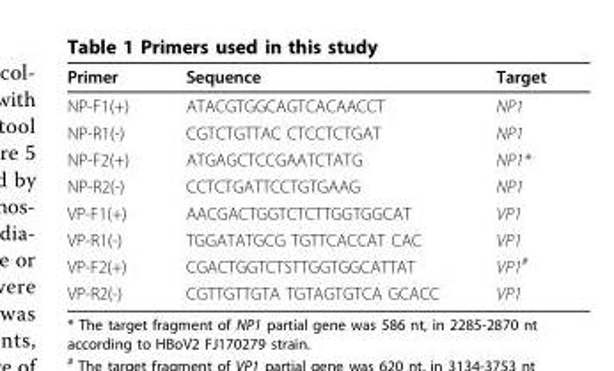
<table><thead><tr><td>Primer</td><td>Sequence</td><td>Target</td></tr></thead><tbody><tr><td>NP-F1(+)</td><td>ATACGTGGCAGTCACAACCT</td><td>NP1</td></tr><tr><td>NP-R1(-)</td><td>CGTCTGTTAC CTCCTCTGAT</td><td>NP1</td></tr><tr><td>NP-F2(+)</td><td>ATGAGCTCCGAATCTATG</td><td>NP1*</td></tr><tr><td>NP-R2(-)</td><td>CCTCTGATTCCTGTGAAG</td><td>NP1</td></tr><tr><td>VP-F1(+)</td><td>AACGACTGGTCTCTTGGTGGCAT</td><td>VP1</td></tr><tr><td>VP-R1(-)</td><td>TGGATATGCG TGTTCACCAT CAC</td><td>VP1</td></tr><tr><td>VP-F2(+)</td><td>CGACTGGTCTSTTGGTGGCATTAT</td><td>VP1<sup>#</sup></td></tr><tr><td>VP-R2(-)</td><td>CGTTGTTGTA TGTAGTGTCA GCACC</td><td>VP1</td></tr></tbody></table>